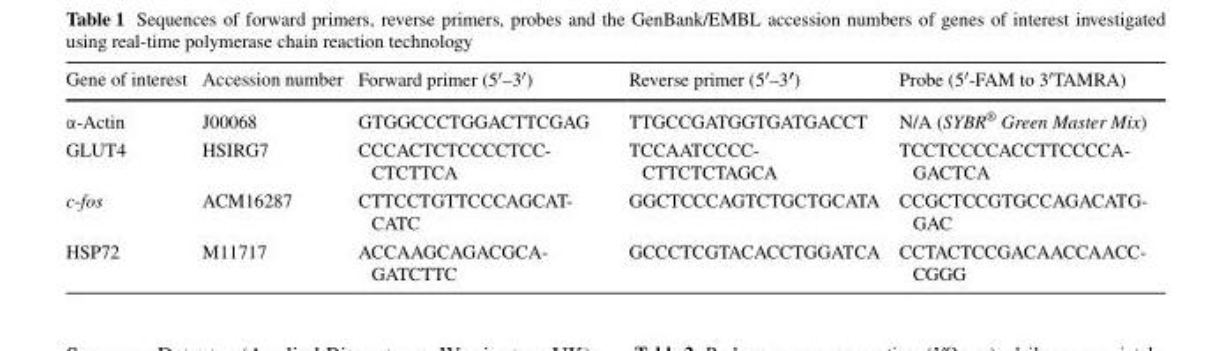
<table><thead><tr><td>Gene of interest</td><td>Accession number</td><td>Forward primer (5′–3′)</td><td>Reverse primer (5′–3′)</td><td>Probe (5′-FAM to 3′TAMRA)</td></tr></thead><tbody><tr><td>α-Actin</td><td>J00068</td><td>GTGGCCCTGGACTTCGAG</td><td>TTGCCGATGGTGATGACCT</td><td>N/A (SYBR<sup>®</sup> Green Master Mix)</td></tr><tr><td>GLUT4</td><td>HSIRG7</td><td>CCCACTCTCCCCTCC- CTCTTCA</td><td>TCCAATCCCC- CTTCTCTAGCA</td><td>TCCTCCCCACCTTCCCCA- GACTCA</td></tr><tr><td>c-fos</td><td>ACM16287</td><td>CTTCCTGTTCCCAGCAT- CATC</td><td>GGCTCCCAGTCTGCTGCATA</td><td>CCGCTCCGTGCCAGACATG- GAC</td></tr><tr><td>HSP72</td><td>M11717</td><td>ACCAAGCAGACGCA- GATCTTC</td><td>GCCCTCGTACACCTGGATCA</td><td>CCTACTCCGACAACCAACC- CGGG</td></tr></tbody></table>